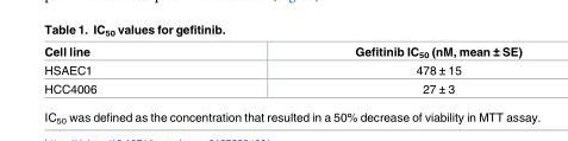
<table><thead><tr><td>Cell line</td><td>Gefitinib IC<sub>50</sub> (nM, mean ± SE)</td></tr></thead><tbody><tr><td>HSAEC1</td><td>478 ± 15</td></tr><tr><td>HCC4006</td><td>27 ± 3</td></tr></tbody></table>